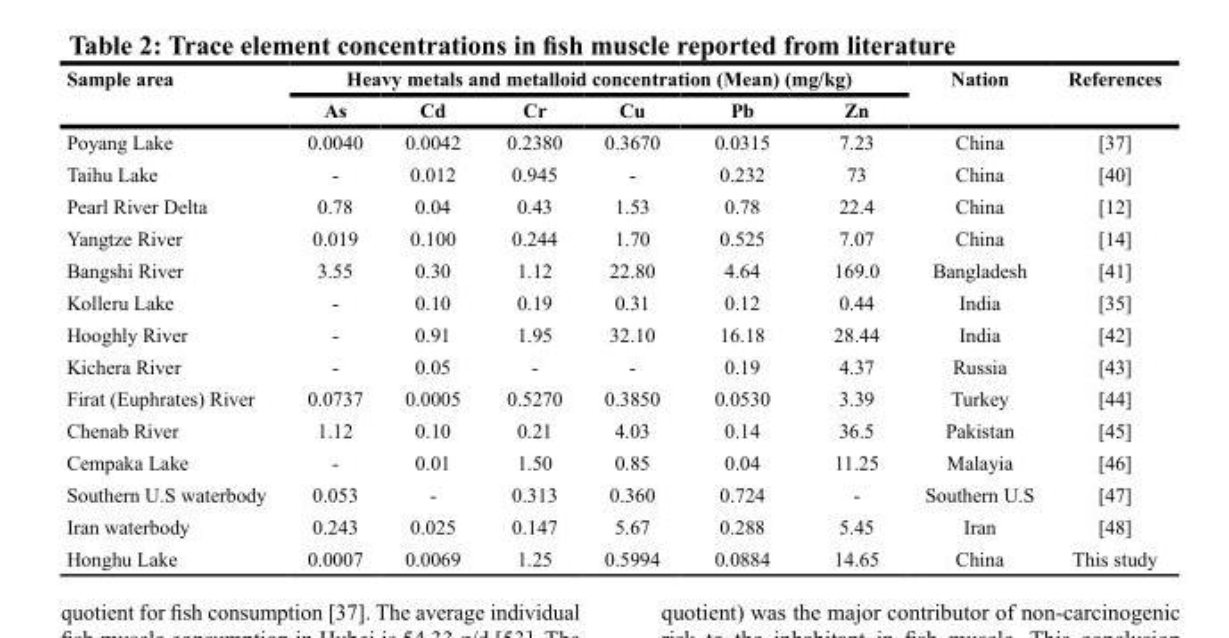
<table><thead><tr><td rowspan="2">Sample area</td><td colspan="6">Heavy metals and metalloid concentration (Mean) (mg/kg)</td><td rowspan="2">Nation</td><td rowspan="2">References</td></tr><tr><td>As</td><td>Cd</td><td>Cr</td><td>Cu</td><td>Pb</td><td>Zn</td></tr></thead><tbody><tr><td>Poyang Lake</td><td>0.0040</td><td>0.0042</td><td>0.2380</td><td>0.3670</td><td>0.0315</td><td>7.23</td><td>China</td><td>[37]</td></tr><tr><td>Taihu Lake</td><td>-</td><td>0.012</td><td>0.945</td><td>-</td><td>0.232</td><td>73</td><td>China</td><td>[40]</td></tr><tr><td>Pearl River Delta</td><td>0.78</td><td>0.04</td><td>0.43</td><td>1.53</td><td>0.78</td><td>22.4</td><td>China</td><td>[12]</td></tr><tr><td>Yangtze River</td><td>0.019</td><td>0.100</td><td>0.244</td><td>1.70</td><td>0.525</td><td>7.07</td><td>China</td><td>[14]</td></tr><tr><td>Bangshi River</td><td>3.55</td><td>0.30</td><td>1.12</td><td>22.80</td><td>4.64</td><td>169.0</td><td>Bangladesh</td><td>[41]</td></tr><tr><td>Kolleru Lake</td><td>-</td><td>0.10</td><td>0.19</td><td>0.31</td><td>0.12</td><td>0.44</td><td>India</td><td>[35]</td></tr><tr><td>Hooghly River</td><td>-</td><td>0.91</td><td>1.95</td><td>32.10</td><td>16.18</td><td>28.44</td><td>India</td><td>[42]</td></tr><tr><td>Kichera River</td><td>-</td><td>0.05</td><td>-</td><td>-</td><td>0.19</td><td>4.37</td><td>Russia</td><td>[43]</td></tr><tr><td>Firat (Euphrates) River</td><td>0.0737</td><td>0.0005</td><td>0.5270</td><td>0.3850</td><td>0.0530</td><td>3.39</td><td>Turkey</td><td>[44]</td></tr><tr><td>Chenab River</td><td>1.12</td><td>0.10</td><td>0.21</td><td>4.03</td><td>0.14</td><td>36.5</td><td>Pakistan</td><td>[45]</td></tr><tr><td>Cempaka Lake</td><td>-</td><td>0.01</td><td>1.50</td><td>0.85</td><td>0.04</td><td>11.25</td><td>Malayia</td><td>[46]</td></tr><tr><td>Southern U.S waterbody</td><td>0.053</td><td>-</td><td>0.313</td><td>0.360</td><td>0.724</td><td>-</td><td>Southern U.S</td><td>[47]</td></tr><tr><td>Iran waterbody</td><td>0.243</td><td>0.025</td><td>0.147</td><td>5.67</td><td>0.288</td><td>5.45</td><td>Iran</td><td>[48]</td></tr><tr><td>Honghu Lake</td><td>0.0007</td><td>0.0069</td><td>1.25</td><td>0.5994</td><td>0.0884</td><td>14.65</td><td>China</td><td>This study</td></tr></tbody></table>